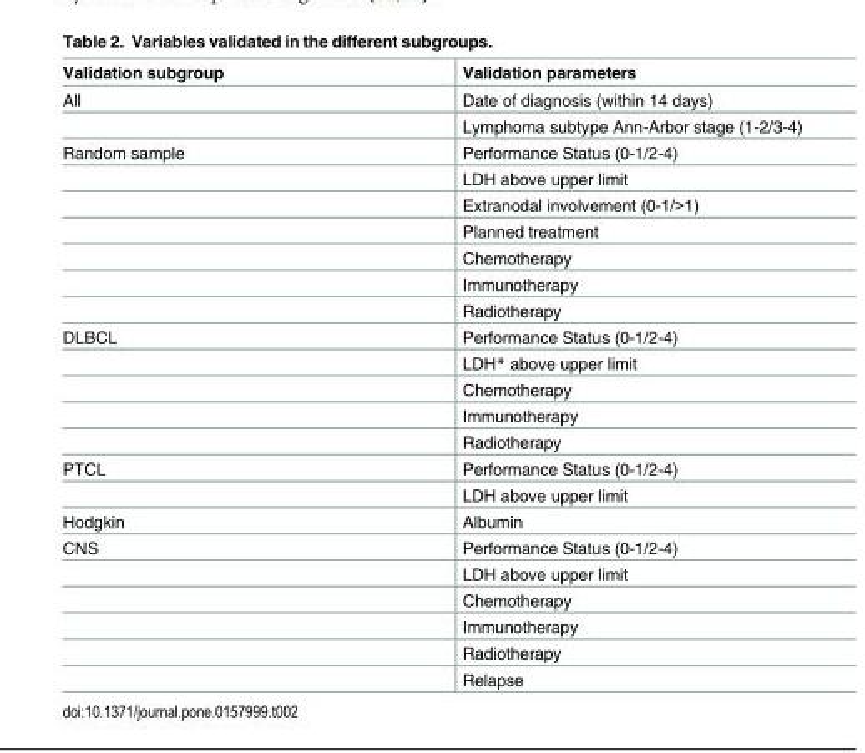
<table><thead><tr><td>Validation subgroup</td><td>Validation parameters</td></tr></thead><tbody><tr><td rowspan="2">All</td><td>Date of diagnosis (within 14 days)</td></tr><tr><td>Lymphoma subtype Ann-Arbor stage (1-2/3-4)</td></tr><tr><td rowspan="7">Random sample</td><td>Performance Status (0-1/2-4)</td></tr><tr><td>LDH above upper limit</td></tr><tr><td>Extranodal involvement (0-1/&gt;1)</td></tr><tr><td>Planned treatment</td></tr><tr><td>Chemotherapy</td></tr><tr><td>Immunotherapy</td></tr><tr><td>Radiotherapy</td></tr><tr><td rowspan="5">DLBCL</td><td>Performance Status (0-1/2-4)</td></tr><tr><td>LDH* above upper limit</td></tr><tr><td>Chemotherapy</td></tr><tr><td>Immunotherapy</td></tr><tr><td>Radiotherapy</td></tr><tr><td rowspan="2">PTCL</td><td>Performance Status (0-1/2-4)</td></tr><tr><td>LDH above upper limit</td></tr><tr><td>Hodgkin</td><td>Albumin</td></tr><tr><td rowspan="6">CNS</td><td>Performance Status (0-1/2-4)</td></tr><tr><td>LDH above upper limit</td></tr><tr><td>Chemotherapy</td></tr><tr><td>Immunotherapy</td></tr><tr><td>Radiotherapy</td></tr><tr><td>Relapse</td></tr></tbody></table>